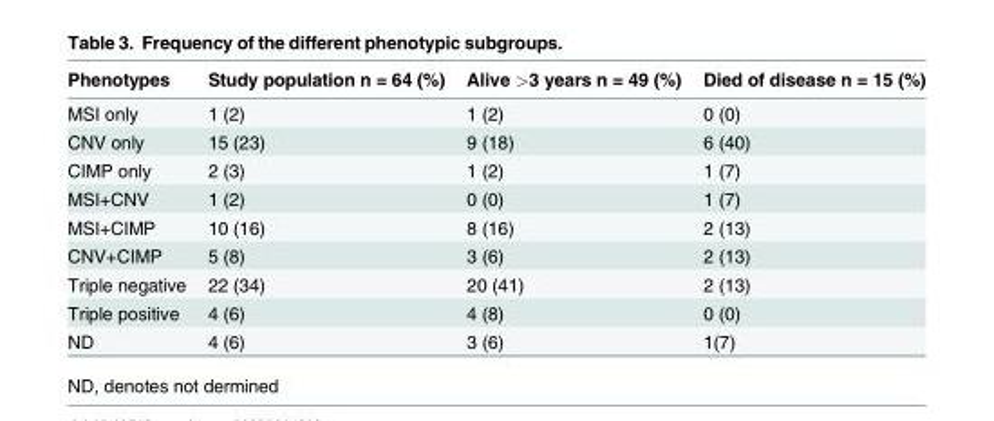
<table><thead><tr><td>Phenotypes</td><td>Study population n = 64 (%)</td><td>Alive &gt;3 years n = 49 (%)</td><td>Died of disease n = 15 (%)</td></tr></thead><tbody><tr><td>MSI only</td><td>1 (2)</td><td>1 (2)</td><td>0 (0)</td></tr><tr><td>CNV only</td><td>15 (23)</td><td>9 (18)</td><td>6 (40)</td></tr><tr><td>CIMP only</td><td>2 (3)</td><td>1 (2)</td><td>1 (7)</td></tr><tr><td>MSI+CNV</td><td>1 (2)</td><td>0 (0)</td><td>1 (7)</td></tr><tr><td>MSI+CIMP</td><td>10 (16)</td><td>8 (16)</td><td>2 (13)</td></tr><tr><td>CNV+CIMP</td><td>5 (8)</td><td>3 (6)</td><td>2 (13)</td></tr><tr><td>Triple negative</td><td>22 (34)</td><td>20 (41)</td><td>2 (13)</td></tr><tr><td>Triple positive</td><td>4 (6)</td><td>4 (8)</td><td>0 (0)</td></tr><tr><td>ND</td><td>4 (6)</td><td>3 (6)</td><td>1(7)</td></tr></tbody></table>